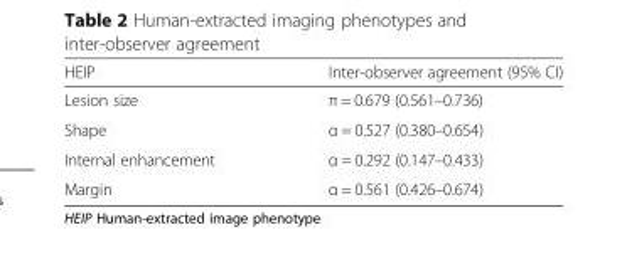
<table><thead><tr><td>HEIP</td><td>Inter-observer agreement (95% CI)</td></tr></thead><tbody><tr><td>Lesion size</td><td>π = 0.679 (0.561–0.736)</td></tr><tr><td>Shape</td><td>α = 0.527 (0.380–0.654)</td></tr><tr><td>Internal enhancement</td><td>α = 0.292 (0.147–0.433)</td></tr><tr><td>Margin</td><td>α = 0.561 (0.426–0.674)</td></tr></tbody></table>